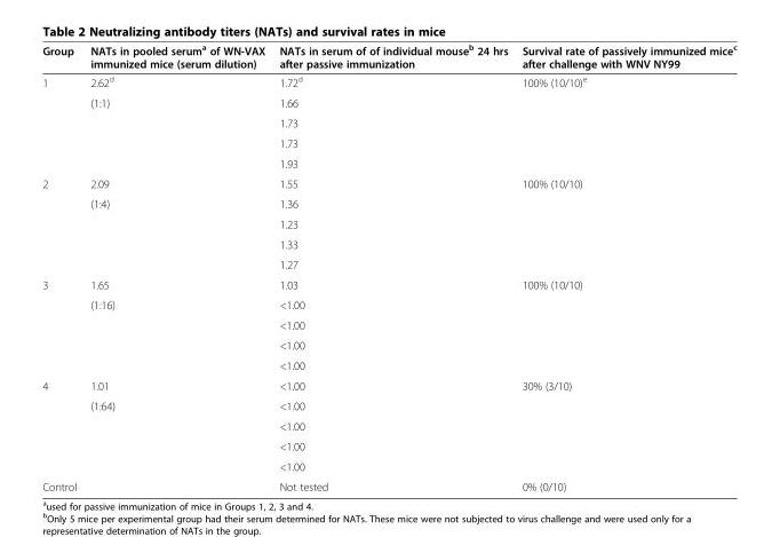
<table><thead><tr><td>Group</td><td>NATs in pooled serum<sup>a</sup> of WN-VAX immunized mice (serum dilution)</td><td>NATs in serum of of individual mouse<sup>b</sup> 24 hrs after passive immunization</td><td>Survival rate of passively immunized mice<sup>c</sup> after challenge with WNV NY99</td></tr></thead><tbody><tr><td rowspan="5">1</td><td>2.62<sup>d</sup></td><td>1.72<sup>d</sup></td><td>100% (10/10)<sup>e</sup></td></tr><tr><td>(1:1)</td><td>1.66</td><td></td></tr><tr><td></td><td>1.73</td><td></td></tr><tr><td></td><td>1.73</td><td></td></tr><tr><td></td><td>1.93</td><td></td></tr><tr><td rowspan="5">2</td><td>2.09</td><td>1.55</td><td>100% (10/10)</td></tr><tr><td>(1:4)</td><td>1.36</td><td></td></tr><tr><td></td><td>1.23</td><td></td></tr><tr><td></td><td>1.33</td><td></td></tr><tr><td></td><td>1.27</td><td></td></tr><tr><td rowspan="5">3</td><td>1.65</td><td>1.03</td><td>100% (10/10)</td></tr><tr><td>(1:16)</td><td>&lt;1.00</td><td></td></tr><tr><td></td><td>&lt;1.00</td><td></td></tr><tr><td></td><td>&lt;1.00</td><td></td></tr><tr><td></td><td>&lt;1.00</td><td></td></tr><tr><td rowspan="5">4</td><td>1.01</td><td>&lt;1.00</td><td>30% (3/10)</td></tr><tr><td>(1:64)</td><td>&lt;1.00</td><td></td></tr><tr><td></td><td>&lt;1.00</td><td></td></tr><tr><td></td><td>&lt;1.00</td><td></td></tr><tr><td></td><td>&lt;1.00</td><td></td></tr><tr><td>Control</td><td></td><td>Not tested</td><td>0% (0/10)</td></tr></tbody></table>